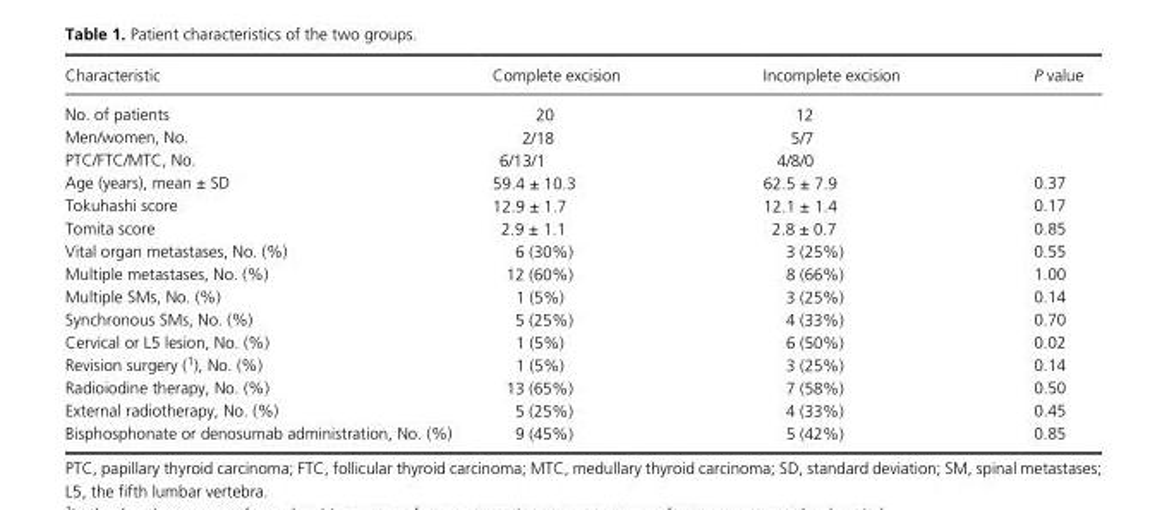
<table><thead><tr><td>Characteristic</td><td>Complete excision</td><td>Incomplete excision</td><td>P value</td></tr></thead><tbody><tr><td>No. of patients</td><td>20</td><td>12</td><td></td></tr><tr><td>Men/women, No.</td><td>2/18</td><td>5/7</td><td></td></tr><tr><td>PTC/FTC/MTC, No.</td><td>6/13/1</td><td>4/8/0</td><td></td></tr><tr><td>Age (years), mean ± SD</td><td>59.4 ± 10.3</td><td>62.5 ± 7.9</td><td>0.37</td></tr><tr><td>Tokuhashi score</td><td>12.9 ± 1.7</td><td>12.1 ± 1.4</td><td>0.17</td></tr><tr><td>Tomita score</td><td>2.9 ± 1.1</td><td>2.8 ± 0.7</td><td>0.85</td></tr><tr><td>Vital organ metastases, No. (%)</td><td>6 (30%)</td><td>3 (25%)</td><td>0.55</td></tr><tr><td>Multiple metastases, No. (%)</td><td>12 (60%)</td><td>8 (66%)</td><td>1.00</td></tr><tr><td>Multiple SMs, No. (%)</td><td>1 (5%)</td><td>3 (25%)</td><td>0.14</td></tr><tr><td>Synchronous SMs, No. (%)</td><td>5 (25%)</td><td>4 (33%)</td><td>0.70</td></tr><tr><td>Cervical or L5 lesion, No. (%)</td><td>1 (5%)</td><td>6 (50%)</td><td>0.02</td></tr><tr><td>Revision surgery (1), No. (%)</td><td>1 (5%)</td><td>3 (25%)</td><td>0.14</td></tr><tr><td>Radioiodine therapy, No. (%)</td><td>13 (65%)</td><td>7 (58%)</td><td>0.50</td></tr><tr><td>External radiotherapy, No. (%)</td><td>5 (25%)</td><td>4 (33%)</td><td>0.45</td></tr><tr><td>Bisphosphonate or denosumab administration, No. (%)</td><td>9 (45%)</td><td>5 (42%)</td><td>0.85</td></tr></tbody></table>